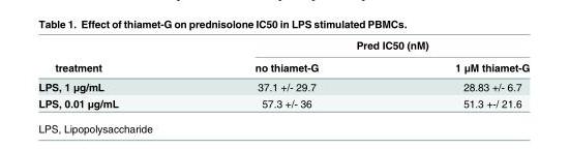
<table><thead><tr><td rowspan="2">treatment</td><td colspan="2">Pred IC50 (nM)</td></tr><tr><td>no thiamet-G</td><td>1 μM thiamet-G</td></tr></thead><tbody><tr><td>LPS, 1 μg/mL</td><td>37.1 +/- 29.7</td><td>28.83 +/- 6.7</td></tr><tr><td>LPS, 0.01 μg/mL</td><td>57.3 +/- 36</td><td>51.3 +-/ 21.6</td></tr></tbody></table>